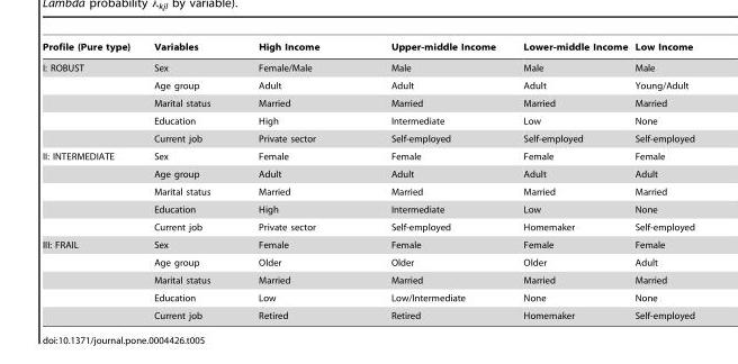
<table><thead><tr><td>Profile (Pure type)</td><td>Variables</td><td>High Income</td><td>Upper-middle Income</td><td>Lower-middle Income</td><td>Low Income</td></tr></thead><tbody><tr><td rowspan="5">I: ROBUST</td><td>Sex</td><td>Female/Male</td><td>Male</td><td>Male</td><td>Male</td></tr><tr><td>Age group</td><td>Adult</td><td>Adult</td><td>Adult</td><td>Young/Adult</td></tr><tr><td>Marital status</td><td>Married</td><td>Married</td><td>Married</td><td>Married</td></tr><tr><td>Education</td><td>High</td><td>Intermediate</td><td>Low</td><td>None</td></tr><tr><td>Current job</td><td>Private sector</td><td>Self-employed</td><td>Self-employed</td><td>Self-employed</td></tr><tr><td rowspan="5">II: INTERMEDIATE</td><td>Sex</td><td>Female</td><td>Female</td><td>Female</td><td>Female</td></tr><tr><td>Age group</td><td>Adult</td><td>Adult</td><td>Adult</td><td>Adult</td></tr><tr><td>Marital status</td><td>Married</td><td>Married</td><td>Married</td><td>Married</td></tr><tr><td>Education</td><td>High</td><td>Intermediate</td><td>Low</td><td>None</td></tr><tr><td>Current job</td><td>Private sector</td><td>Self-employed</td><td>Homemaker</td><td>Self-employed</td></tr><tr><td rowspan="5">III: FRAIL</td><td>Sex</td><td>Female</td><td>Female</td><td>Female</td><td>Female</td></tr><tr><td>Age group</td><td>Older</td><td>Older</td><td>Older</td><td>Adult</td></tr><tr><td>Marital status</td><td>Married</td><td>Married</td><td>Married</td><td>Married</td></tr><tr><td>Education</td><td>Low</td><td>Low/Intermediate</td><td>None</td><td>None</td></tr><tr><td>Current job</td><td>Retired</td><td>Retired</td><td>Homemaker</td><td>Self-employed</td></tr></tbody></table>